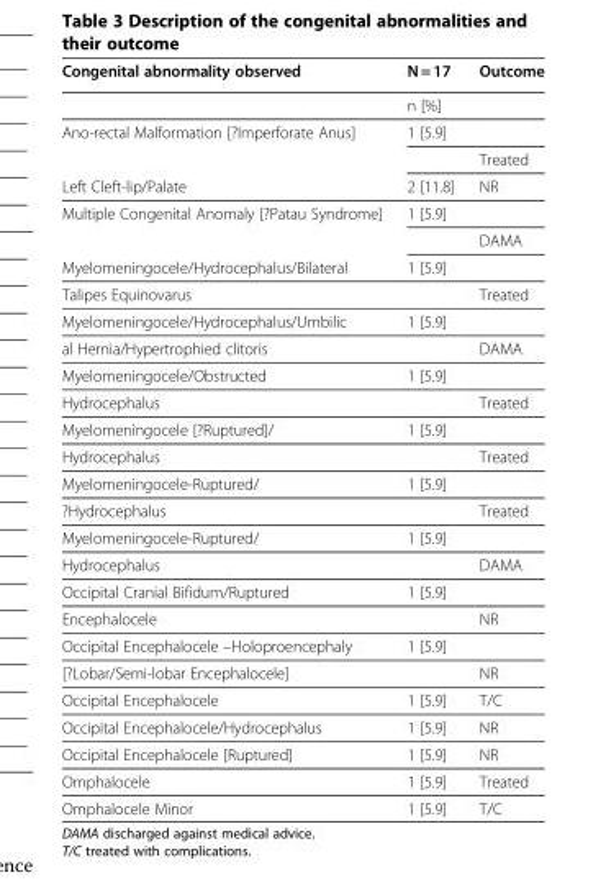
<table><thead><tr><td>Congenital abnormality observed</td><td>N = 17</td><td>Outcome</td></tr></thead><tbody><tr><td></td><td>n [%]</td><td></td></tr><tr><td rowspan="2">Ano-rectal Malformation [?Imperforate Anus]</td><td>1 [5.9]</td><td></td></tr><tr><td></td><td>Treated</td></tr><tr><td>Left Cleft-lip/Palate</td><td>2 [11.8]</td><td>NR</td></tr><tr><td rowspan="2">Multiple Congenital Anomaly [?Patau Syndrome]</td><td>1 [5.9]</td><td></td></tr><tr><td></td><td>DAMA</td></tr><tr><td>Myelomeningocele/Hydrocephalus/Bilateral</td><td>1 [5.9]</td><td></td></tr><tr><td>Talipes Equinovarus</td><td></td><td>Treated</td></tr><tr><td>Myelomeningocele/Hydrocephalus/Umbilic</td><td>1 [5.9]</td><td></td></tr><tr><td>al Hernia/Hypertrophied clitoris</td><td></td><td>DAMA</td></tr><tr><td>Myelomeningocele/Obstructed</td><td>1 [5.9]</td><td></td></tr><tr><td>Hydrocephalus</td><td></td><td>Treated</td></tr><tr><td>Myelomeningocele [?Ruptured]/</td><td>1 [5.9]</td><td></td></tr><tr><td>Hydrocephalus</td><td></td><td>Treated</td></tr><tr><td>Myelomeningocele-Ruptured/</td><td>1 [5.9]</td><td></td></tr><tr><td>?Hydrocephalus</td><td></td><td>Treated</td></tr><tr><td>Myelomeningocele-Ruptured/</td><td>1 [5.9]</td><td></td></tr><tr><td>Hydrocephalus</td><td></td><td>DAMA</td></tr><tr><td>Occipital Cranial Bifidum/Ruptured</td><td>1 [5.9]</td><td></td></tr><tr><td>Encephalocele</td><td></td><td>NR</td></tr><tr><td>Occipital Encephalocele –Holoproencephaly</td><td>1 [5.9]</td><td></td></tr><tr><td>[?Lobar/Semi-lobar Encephalocele]</td><td></td><td>NR</td></tr><tr><td>Occipital Encephalocele</td><td>1 [5.9]</td><td>T/C</td></tr><tr><td>Occipital Encephalocele/Hydrocephalus</td><td>1 [5.9]</td><td>NR</td></tr><tr><td>Occipital Encephalocele [Ruptured]</td><td>1 [5.9]</td><td>NR</td></tr><tr><td>Omphalocele</td><td>1 [5.9]</td><td>Treated</td></tr><tr><td>Omphalocele Minor</td><td>1 [5.9]</td><td>T/C</td></tr></tbody></table>